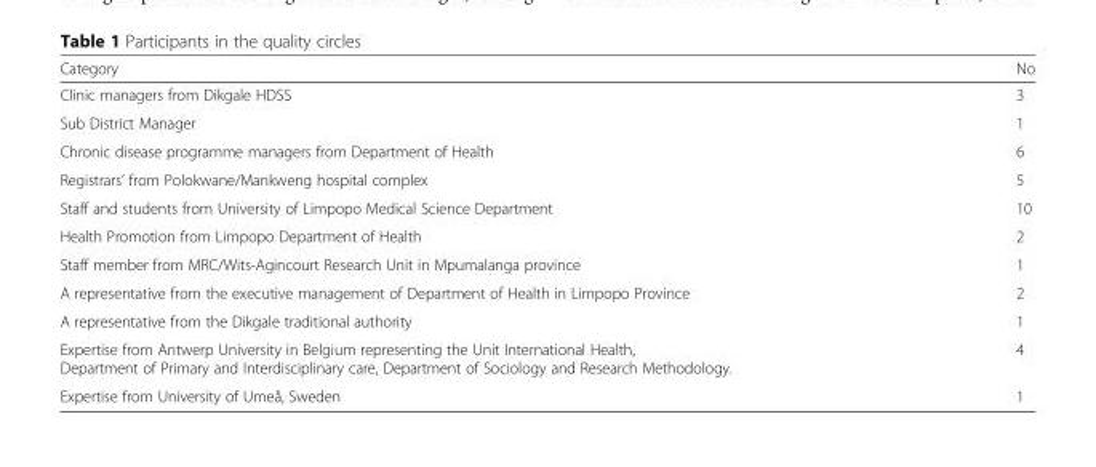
<table><thead><tr><td>Category</td><td>No</td></tr></thead><tbody><tr><td>Clinic managers from Dikgale HDSS</td><td>3</td></tr><tr><td>Sub District Manager</td><td>1</td></tr><tr><td>Chronic disease programme managers from Department of Health</td><td>6</td></tr><tr><td>Registrars’ from Polokwane/Mankweng hospital complex</td><td>5</td></tr><tr><td>Staff and students from University of Limpopo Medical Science Department</td><td>10</td></tr><tr><td>Health Promotion from Limpopo Department of Health</td><td>2</td></tr><tr><td>Staff member from MRC/Wits-Agincourt Research Unit in Mpumalanga province</td><td>1</td></tr><tr><td>A representative from the executive management of Department of Health in Limpopo Province</td><td>2</td></tr><tr><td>A representative from the Dikgale traditional authority</td><td>1</td></tr><tr><td>Expertise from Antwerp University in Belgium representing the Unit International Health, Department of Primary and Interdisciplinary care, Department of Sociology and Research Methodology.</td><td>4</td></tr><tr><td>Expertise from University of Umeå, Sweden</td><td>1</td></tr></tbody></table>